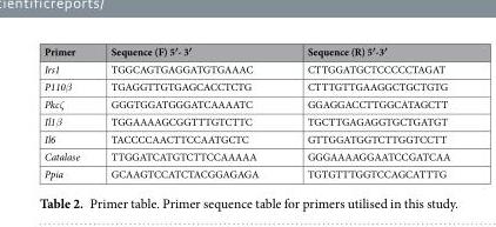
<table><thead><tr><td>Primer</td><td>Sequence (F) 5′- 3′</td><td>Sequence (R) 5′-3′</td></tr></thead><tbody><tr><td>Irs1</td><td>TGGCAGTGAGGATGTGAAAC</td><td>CTTGGATGCTCCCCCTAGAT</td></tr><tr><td>P110β</td><td>TGAGGTTGTGAGCACCTCTG</td><td>CTTTGTTGAAGGCTGCTGTG</td></tr><tr><td>Pkcζ</td><td>GGGTGGATGGGATCAAAATC</td><td>GGAGGACCTTGGCATAGCTT</td></tr><tr><td>Il1β</td><td>TGGAAAAGCGGTTTGTCTTC</td><td>TGCTTGAGAGGTGCTGATGT</td></tr><tr><td>Il6</td><td>TACCCCAACTTCCAATGCTC</td><td>GTTGGATGGTCTTGGTCCTT</td></tr><tr><td>Catalase</td><td>TTGGATCATGTCTTCCAAAAA</td><td>GGGAAAAGGAATCCGATCAA</td></tr><tr><td>Ppia</td><td>GCAAGTCCATCTACGGAGAGA</td><td>TGTGTTTGGTCCAGCATTTG</td></tr></tbody></table>